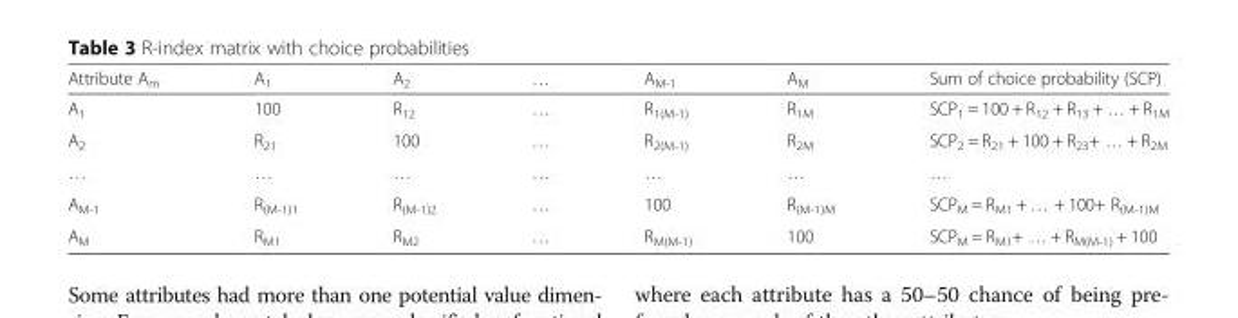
<table><thead><tr><td>Attribute A<sub>m</sub></td><td>A<sub>1</sub></td><td>A<sub>2</sub></td><td>…</td><td>A<sub>M-1</sub></td><td>A<sub>M</sub></td><td>Sum of choice probability (SCP)</td></tr></thead><tbody><tr><td>A<sub>1</sub></td><td>100</td><td>R<sub>12</sub></td><td>…</td><td>R<sub>1(M-1)</sub></td><td>R<sub>1M</sub></td><td>SCP<sub>1</sub> = 100 + R<sub>12</sub> + R<sub>13</sub> + … + R<sub>1M</sub></td></tr><tr><td>A<sub>2</sub></td><td>R<sub>21</sub></td><td>100</td><td>…</td><td>R<sub>2(M-1)</sub></td><td>R<sub>2M</sub></td><td>SCP<sub>2</sub> = R<sub>21</sub> + 100 + R<sub>23</sub>+ … + R<sub>2M</sub></td></tr><tr><td>…</td><td>…</td><td>…</td><td>…</td><td>…</td><td>…</td><td>…</td></tr><tr><td>A<sub>M-1</sub></td><td>R<sub>(M-1)1</sub></td><td>R<sub>(M-1)2</sub></td><td>…</td><td>100</td><td>R<sub>(M-1)M</sub></td><td>SCP<sub>M</sub> = R<sub>M1</sub> + … + 100+ R<sub>(M-1)M</sub></td></tr><tr><td>A<sub>M</sub></td><td>R<sub>M1</sub></td><td>R<sub>M2</sub></td><td>…</td><td>R<sub>M(M-1)</sub></td><td>100</td><td>SCP<sub>M</sub> = R<sub>M1</sub>+ … + R<sub>M(M-1)</sub> + 100</td></tr></tbody></table>